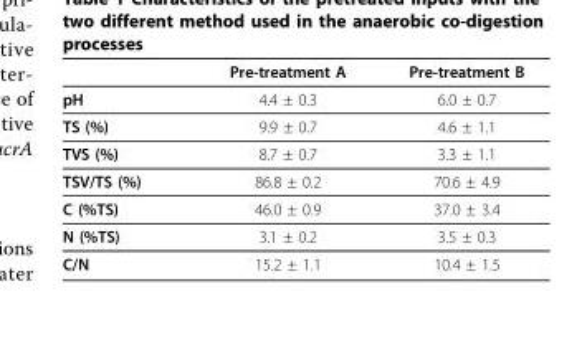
<table><thead><tr><td></td><td>Pre-treatment A</td><td>Pre-treatment B</td></tr></thead><tbody><tr><td>pH</td><td>4.4 ± 0.3</td><td>6.0 ± 0.7</td></tr><tr><td>TS (%)</td><td>9.9 ± 0.7</td><td>4.6 ± 1.1</td></tr><tr><td>TVS (%)</td><td>8.7 ± 0.7</td><td>3.3 ± 1.1</td></tr><tr><td>TSV/TS (%)</td><td>86.8 ± 0.2</td><td>70.6 ± 4.9</td></tr><tr><td>C (%TS)</td><td>46.0 ± 0.9</td><td>37.0 ± 3.4</td></tr><tr><td>N (%TS)</td><td>3.1 ± 0.2</td><td>3.5 ± 0.3</td></tr><tr><td>C/N</td><td>15.2 ± 1.1</td><td>10.4 ± 1.5</td></tr></tbody></table>